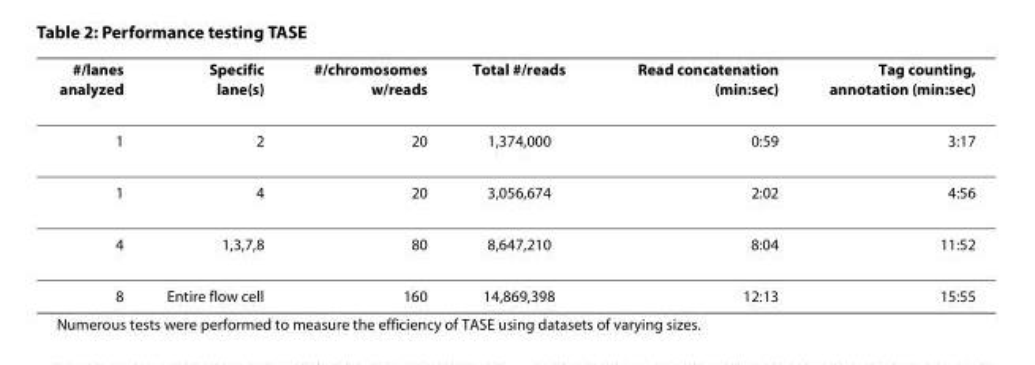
<table><thead><tr><td>#/lanes analyzed</td><td>Specific lane(s)</td><td>#/chromosomes w/reads</td><td>Total #/reads</td><td>Read concatenation (min:sec)</td><td>Tag counting, annotation (min:sec)</td></tr></thead><tbody><tr><td>1</td><td>2</td><td>20</td><td>1,374,000</td><td>0:59</td><td>3:17</td></tr><tr><td>1</td><td>4</td><td>20</td><td>3,056,674</td><td>2:02</td><td>4:56</td></tr><tr><td>4</td><td>1,3,7,8</td><td>80</td><td>8,647,210</td><td>8:04</td><td>11:52</td></tr><tr><td>8</td><td>Entire flow cell</td><td>160</td><td>14,869,398</td><td>12:13</td><td>15:55</td></tr></tbody></table>